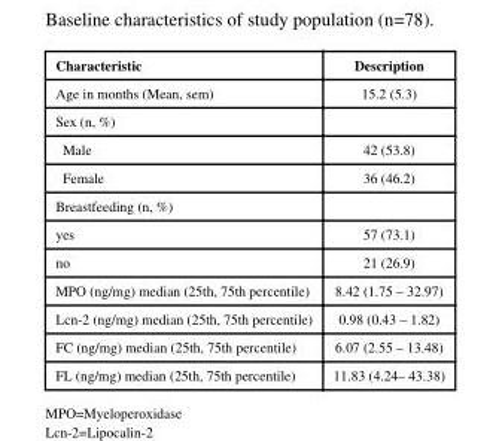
<table><thead><tr><td>Characteristic</td><td>Description</td></tr></thead><tbody><tr><td>Age in months (Mean, sem)</td><td>15.2 (5.3)</td></tr><tr><td colspan="2">Sex (n, %)</td></tr><tr><td>Male</td><td>42 (53.8)</td></tr><tr><td>Female</td><td>36 (46.2)</td></tr><tr><td colspan="2">Breastfeeding (n, %)</td></tr><tr><td>yes</td><td>57 (73.1)</td></tr><tr><td>no</td><td>21 (26.9)</td></tr><tr><td>MPO (ng/mg) median (25th, 75th percentile)</td><td>8.42 (1.75 – 32.97)</td></tr><tr><td>Lcn-2 (ng/mg) median (25th, 75th percentile)</td><td>0.98 (0.43 – 1.82)</td></tr><tr><td>FC (ng/mg) median (25th, 75th percentile)</td><td>6.07 (2.55 – 13.48)</td></tr><tr><td>FL (ng/mg) median (25th, 75th percentile)</td><td>11.83 (4.24– 43.38)</td></tr></tbody></table>